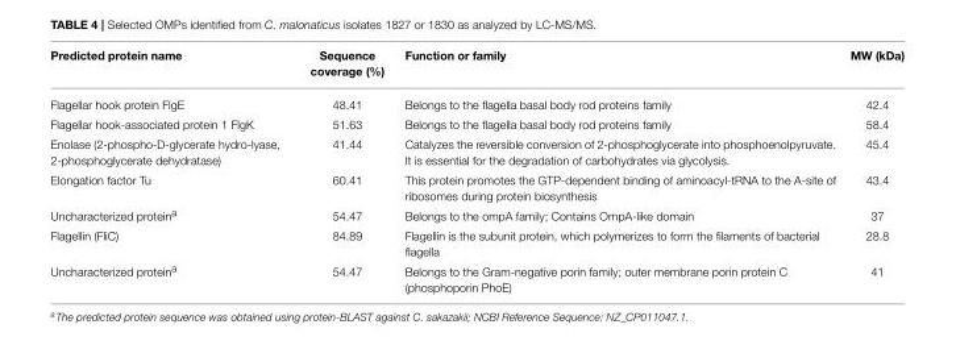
<table><thead><tr><td>Predicted protein name</td><td>Sequence coverage (%)</td><td>Function or family</td><td>MW (kDa)</td></tr></thead><tbody><tr><td>Flagellar hook protein FlgE</td><td>48.41</td><td>Belongs to the flagella basal body rod proteins family</td><td>42.4</td></tr><tr><td>Flagellar hook-associated protein 1 FlgK</td><td>51.63</td><td>Belongs to the flagella basal body rod proteins family</td><td>58.4</td></tr><tr><td>Enolase (2-phospho-D-glycerate hydro-lyase, 2-phosphoglycerate dehydratase)</td><td>41.44</td><td>Catalyzes the reversible conversion of 2-phosphoglycerate into phosphoenolpyruvate. It is essential for the degradation of carbohydrates via glycolysis.</td><td>45.4</td></tr><tr><td>Elongation factor Tu</td><td>60.41</td><td>This protein promotes the GTP-dependent binding of aminoacyl-tRNA to the A-site of ribosomes during protein biosynthesis</td><td>43.4</td></tr><tr><td>Uncharacterized protein<sup>a</sup></td><td>54.47</td><td>Belongs to the ompA family; Contains OmpA-like domain</td><td>37</td></tr><tr><td>Flagellin (FliC)</td><td>84.89</td><td>Flagellin is the subunit protein, which polymerizes to form the filaments of bacterial flagella</td><td>28.8</td></tr><tr><td>Uncharacterized protein<sup>a</sup></td><td>54.47</td><td>Belongs to the Gram-negative porin family; outer membrane porin protein C (phosphoporin PhoE)</td><td>41</td></tr></tbody></table>